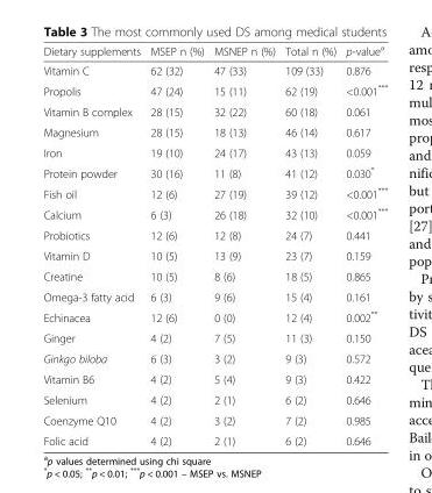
<table><thead><tr><td>Dietary supplements</td><td>MSEP n (%)</td><td>MSNEP n (%)</td><td>Total n (%)</td><td>p-value<sup>a</sup></td></tr></thead><tbody><tr><td>Vitamin C</td><td>62 (32)</td><td>47 (33)</td><td>109 (33)</td><td>0.876</td></tr><tr><td>Propolis</td><td>47 (24)</td><td>15 (11)</td><td>62 (19)</td><td>&lt;0.001***</td></tr><tr><td>Vitamin B complex</td><td>28 (15)</td><td>32 (22)</td><td>60 (18)</td><td>0.061</td></tr><tr><td>Magnesium</td><td>28 (15)</td><td>18 (13)</td><td>46 (14)</td><td>0.617</td></tr><tr><td>Iron</td><td>19 (10)</td><td>24 (17)</td><td>43 (13)</td><td>0.059</td></tr><tr><td>Protein powder</td><td>30 (16)</td><td>11 (8)</td><td>41 (12)</td><td>0.030*</td></tr><tr><td>Fish oil</td><td>12 (6)</td><td>27 (19)</td><td>39 (12)</td><td>&lt;0.001***</td></tr><tr><td>Calcium</td><td>6 (3)</td><td>26 (18)</td><td>32 (10)</td><td>&lt;0.001***</td></tr><tr><td>Probiotics</td><td>12 (6)</td><td>12 (8)</td><td>24 (7)</td><td>0.441</td></tr><tr><td>Vitamin D</td><td>10 (5)</td><td>13 (9)</td><td>23 (7)</td><td>0.159</td></tr><tr><td>Creatine</td><td>10 (5)</td><td>8 (6)</td><td>18 (5)</td><td>0.865</td></tr><tr><td>Omega-3 fatty acid</td><td>6 (3)</td><td>9 (6)</td><td>15 (4)</td><td>0.161</td></tr><tr><td>Echinacea</td><td>12 (6)</td><td>0 (0)</td><td>12 (4)</td><td>0.002**</td></tr><tr><td>Ginger</td><td>4 (2)</td><td>7 (5)</td><td>11 (3)</td><td>0.150</td></tr><tr><td>Ginkgo biloba</td><td>6 (3)</td><td>3 (2)</td><td>9 (3)</td><td>0.572</td></tr><tr><td>Vitamin B6</td><td>4 (2)</td><td>5 (4)</td><td>9 (3)</td><td>0.422</td></tr><tr><td>Selenium</td><td>4 (2)</td><td>2 (1)</td><td>6 (2)</td><td>0.646</td></tr><tr><td>Coenzyme Q10</td><td>4 (2)</td><td>3 (2)</td><td>7 (2)</td><td>0.985</td></tr><tr><td>Folic acid</td><td>4 (2)</td><td>2 (1)</td><td>6 (2)</td><td>0.646</td></tr></tbody></table>